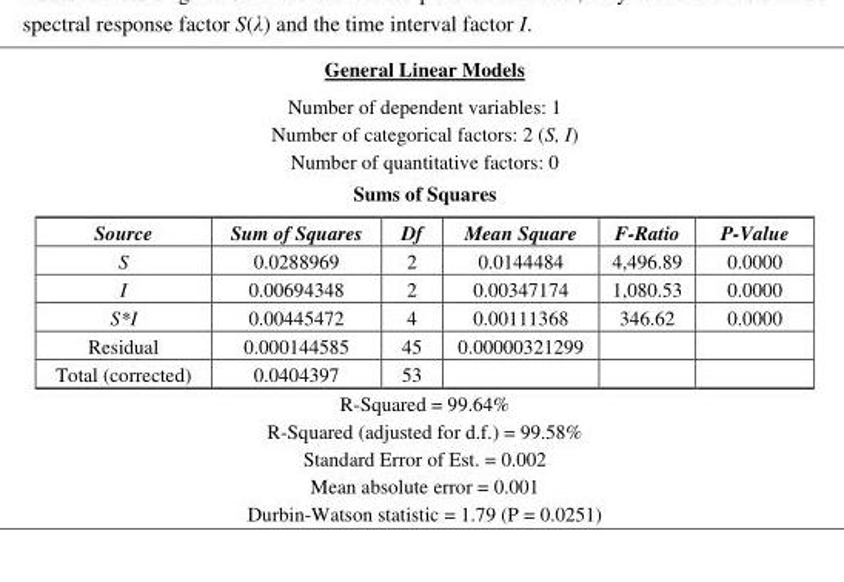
<table><tbody><tr><td colspan="6">General Linear Models</td></tr><tr><td colspan="6">Number of dependent variables: 1</td></tr><tr><td colspan="6">Number of categorical factors: 2 (S, I)</td></tr><tr><td colspan="6">Number of quantitative factors: 0</td></tr><tr><td colspan="6">Sums of Squares</td></tr><tr><td>Source</td><td>Sum of Squares</td><td>Df</td><td>Mean Square</td><td>F-Ratio</td><td>P-Value</td></tr><tr><td>S</td><td>0.0288969</td><td>2</td><td>0.0144484</td><td>4,496.89</td><td>0.0000</td></tr><tr><td>I</td><td>0.00694348</td><td>2</td><td>0.00347174</td><td>1,080.53</td><td>0.0000</td></tr><tr><td>S*I</td><td>0.00445472</td><td>4</td><td>0.00111368</td><td>346.62</td><td>0.0000</td></tr><tr><td>Residual</td><td>0.000144585</td><td>45</td><td>0.00000321299</td><td></td><td></td></tr><tr><td>Total (corrected)</td><td>0.0404397</td><td>53</td><td></td><td></td><td></td></tr><tr><td colspan="6">R-Squared = 99.64%</td></tr><tr><td colspan="6">R-Squared (adjusted for d.f.) = 99.58%</td></tr><tr><td colspan="6">Standard Error of Est. = 0.002</td></tr><tr><td colspan="6">Mean absolute error = 0.001</td></tr><tr><td colspan="6">Durbin-Watson statistic = 1.79 (P = 0.0251)</td></tr></tbody></table>